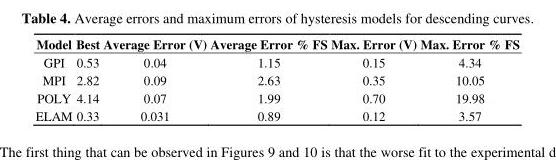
<table><thead><tr><td>Model</td><td>Best</td><td>Average Error (V)</td><td>Average Error % FS</td><td>Max. Error (V)</td><td>Max. Error % FS</td></tr></thead><tbody><tr><td>GPI</td><td>0.53</td><td>0.04</td><td>1.15</td><td>0.15</td><td>4.34</td></tr><tr><td>MPI</td><td>2.82</td><td>0.09</td><td>2.63</td><td>0.35</td><td>10.05</td></tr><tr><td>POLY</td><td>4.14</td><td>0.07</td><td>1.99</td><td>0.70</td><td>19.98</td></tr><tr><td>ELAM</td><td>0.33</td><td>0.031</td><td>0.89</td><td>0.12</td><td>3.57</td></tr></tbody></table>